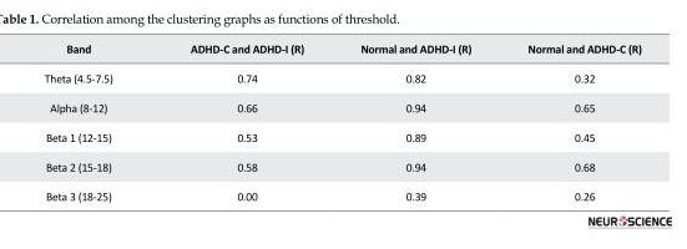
<table><thead><tr><td>Band</td><td>ADHD-C and ADHD-I (R)</td><td>Normal and ADHD-I (R)</td><td>Normal and ADHD-C (R)</td></tr></thead><tbody><tr><td>Theta (4.5-7.5)</td><td>0.74</td><td>0.82</td><td>0.32</td></tr><tr><td>Alpha (8-12)</td><td>0.66</td><td>0.94</td><td>0.65</td></tr><tr><td>Beta 1 (12-15)</td><td>0.53</td><td>0.89</td><td>0.45</td></tr><tr><td>Beta 2 (15-18)</td><td>0.58</td><td>0.94</td><td>0.68</td></tr><tr><td>Beta 3 (18-25)</td><td>0.00</td><td>0.39</td><td>0.26</td></tr></tbody></table>